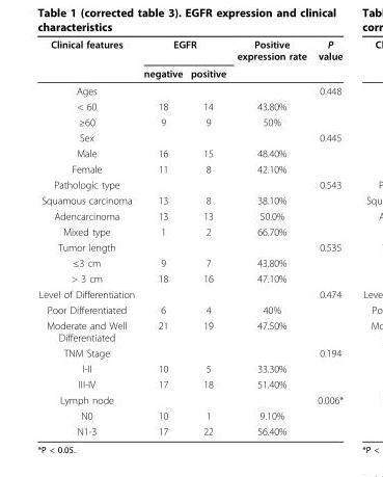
<table><thead><tr><td rowspan="2">Clinical features</td><td colspan="2">EGFR</td><td rowspan="2">Positive expression rate</td><td rowspan="2">P value</td></tr><tr><td>negative</td><td>positive</td></tr></thead><tbody><tr><td>Ages</td><td></td><td></td><td></td><td>0.448</td></tr><tr><td>&lt; 60</td><td>18</td><td>14</td><td>43.80%</td><td></td></tr><tr><td>≥60</td><td>9</td><td>9</td><td>50%</td><td></td></tr><tr><td>Sex</td><td></td><td></td><td></td><td>0.445</td></tr><tr><td>Male</td><td>16</td><td>15</td><td>48.40%</td><td></td></tr><tr><td>Female</td><td>11</td><td>8</td><td>42.10%</td><td></td></tr><tr><td>Pathologic type</td><td></td><td></td><td></td><td>0.543</td></tr><tr><td>Squamous carcinoma</td><td>13</td><td>8</td><td>38.10%</td><td></td></tr><tr><td>Adencarcinoma</td><td>13</td><td>13</td><td>50.0%</td><td></td></tr><tr><td>Mixed type</td><td>1</td><td>2</td><td>66.70%</td><td></td></tr><tr><td>Tumor length</td><td></td><td></td><td></td><td>0.535</td></tr><tr><td>≤3 cm</td><td>9</td><td>7</td><td>43.80%</td><td></td></tr><tr><td>&gt; 3 cm</td><td>18</td><td>16</td><td>47.10%</td><td></td></tr><tr><td>Level of Differentiation</td><td></td><td></td><td></td><td>0.474</td></tr><tr><td>Poor Differentiated</td><td>6</td><td>4</td><td>40%</td><td></td></tr><tr><td>Moderate and Well Differentiated</td><td>21</td><td>19</td><td>47.50%</td><td></td></tr><tr><td>TNM Stage</td><td></td><td></td><td></td><td>0.194</td></tr><tr><td>I-II</td><td>10</td><td>5</td><td>33.30%</td><td></td></tr><tr><td>III-IV</td><td>17</td><td>18</td><td>51.40%</td><td></td></tr><tr><td>Lymph node</td><td></td><td></td><td></td><td>0.006*</td></tr><tr><td>N0</td><td>10</td><td>1</td><td>9.10%</td><td></td></tr><tr><td>N1-3</td><td>17</td><td>22</td><td>56.40%</td><td></td></tr></tbody></table>